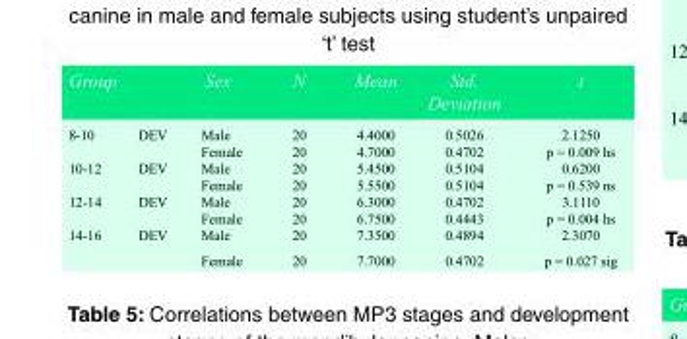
<table><tbody><tr><td>Group</td><td></td><td>Sex</td><td>N</td><td>Mean</td><td>Std. Deviation</td><td>t</td></tr><tr><td rowspan="2">8-10</td><td>DEV</td><td>Male</td><td>20</td><td>4.4000</td><td>0.5026</td><td>2.1250</td></tr><tr><td></td><td>Female</td><td>20</td><td>4.7000</td><td>0.4702</td><td>p = 0.009 hs</td></tr><tr><td rowspan="2">10-12</td><td>DEV</td><td>Male</td><td>20</td><td>5.4500</td><td>0.5104</td><td>0.6200</td></tr><tr><td></td><td>Female</td><td>20</td><td>5.5500</td><td>0.5104</td><td>p = 0.539 ns</td></tr><tr><td rowspan="2">12-14</td><td>DEV</td><td>Male</td><td>20</td><td>6.3000</td><td>0.4702</td><td>3.1110</td></tr><tr><td></td><td>Female</td><td>20</td><td>6.7500</td><td>0.4443</td><td>p = 0.004 hs</td></tr><tr><td rowspan="2">14-16</td><td>DEV</td><td>Male</td><td>20</td><td>7.3500</td><td>0.4894</td><td>2.3070</td></tr><tr><td></td><td>Female</td><td>20</td><td>7.7000</td><td>0.4702</td><td>p = 0.027 sig</td></tr></tbody></table>